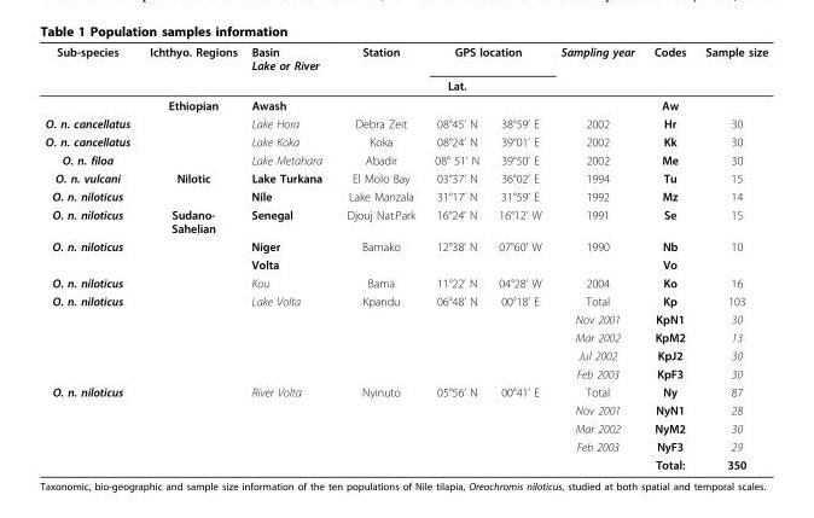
<table><thead><tr><td rowspan="2">Sub-species</td><td rowspan="2">Ichthyo. Regions</td><td rowspan="2">Basin Lake or River</td><td rowspan="2">Station</td><td colspan="2">GPS location</td><td rowspan="2">Sampling year</td><td rowspan="2">Codes</td><td rowspan="2">Sample size</td></tr><tr><td>Lat.</td><td></td></tr></thead><tbody><tr><td></td><td>Ethiopian</td><td>Awash</td><td></td><td></td><td></td><td></td><td>Aw</td><td></td></tr><tr><td>O. n. cancellatus</td><td></td><td>Lake Hora</td><td>Debra Zeit</td><td>08°45’ N</td><td>38°59’ E</td><td>2002</td><td>Hr</td><td>30</td></tr><tr><td>O. n. cancellatus</td><td></td><td>Lake Koka</td><td>Koka</td><td>08°24’ N</td><td>39°01’ E</td><td>2002</td><td>Kk</td><td>30</td></tr><tr><td>O. n. filoa</td><td></td><td>Lake Metahara</td><td>Abadir</td><td>08° 51’ N</td><td>39°50’ E</td><td>2002</td><td>Me</td><td>30</td></tr><tr><td>O. n. vulcani</td><td>Nilotic</td><td>Lake Turkana</td><td>El Molo Bay</td><td>03°37’ N</td><td>36°02’ E</td><td>1994</td><td>Tu</td><td>15</td></tr><tr><td>O. n. niloticus</td><td></td><td>Nile</td><td>Lake Manzala</td><td>31°17’ N</td><td>31°59’ E</td><td>1992</td><td>Mz</td><td>14</td></tr><tr><td>O. n. niloticus</td><td>Sudano- Sahelian</td><td>Senegal</td><td>Djouj Nat.Park</td><td>16°24’ N</td><td>16°12’ W</td><td>1991</td><td>Se</td><td>15</td></tr><tr><td rowspan="2">O. n. niloticus</td><td></td><td>Niger</td><td>Bamako</td><td>12°38’ N</td><td>07°60’ W</td><td>1990</td><td>Nb</td><td>10</td></tr><tr><td></td><td>Volta</td><td></td><td></td><td></td><td></td><td>Vo</td><td></td></tr><tr><td>O. n. niloticus</td><td></td><td>Kou</td><td>Bama</td><td>11°22’ N</td><td>04°28’ W</td><td>2004</td><td>Ko</td><td>16</td></tr><tr><td rowspan="5">O. n. niloticus</td><td></td><td>Lake Volta</td><td>Kpandu</td><td>06°48’ N</td><td>00°18’ E</td><td>Total</td><td>Kp</td><td>103</td></tr><tr><td></td><td></td><td></td><td></td><td></td><td>Nov 2001</td><td>KpN1</td><td>30</td></tr><tr><td></td><td></td><td></td><td></td><td></td><td>Mar 2002</td><td>KpM2</td><td>13</td></tr><tr><td></td><td></td><td></td><td></td><td></td><td>Jul 2002</td><td>KpJ2</td><td>30</td></tr><tr><td></td><td></td><td></td><td></td><td></td><td>Feb 2003</td><td>KpF3</td><td>30</td></tr><tr><td rowspan="5">O. n. niloticus</td><td></td><td>River Volta</td><td>Nyinuto</td><td>05°56’ N</td><td>00°41’ E</td><td>Total</td><td>Ny</td><td>87</td></tr><tr><td></td><td></td><td></td><td></td><td></td><td>Nov 2001</td><td>NyN1</td><td>28</td></tr><tr><td></td><td></td><td></td><td></td><td></td><td>Mar 2002</td><td>NyM2</td><td>30</td></tr><tr><td></td><td></td><td></td><td></td><td></td><td>Feb 2003</td><td>NyF3</td><td>29</td></tr><tr><td></td><td></td><td></td><td></td><td></td><td></td><td>Total:</td><td>350</td></tr></tbody></table>